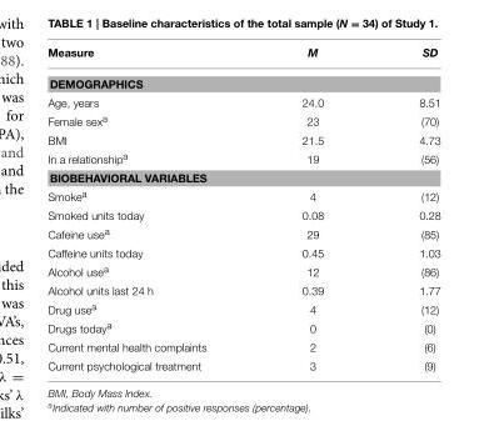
<table><thead><tr><td>Measure</td><td>M</td><td>SD</td></tr></thead><tbody><tr><td colspan="3">DEMOGRAPHICS</td></tr><tr><td>Age, years</td><td>24.0</td><td>8.51</td></tr><tr><td>Female sex<sup>a</sup></td><td>23</td><td>(70)</td></tr><tr><td>BMI</td><td>21.5</td><td>4.73</td></tr><tr><td>In a relationship<sup>a</sup></td><td>19</td><td>(56)</td></tr><tr><td colspan="3">BIOBEHAVIORAL VARIABLES</td></tr><tr><td>Smoke<sup>a</sup></td><td>4</td><td>(12)</td></tr><tr><td>Smoked units today</td><td>0.08</td><td>0.28</td></tr><tr><td>Cafeine use<sup>a</sup></td><td>29</td><td>(85)</td></tr><tr><td>Caffeine units today</td><td>0.45</td><td>1.03</td></tr><tr><td>Alcohol use<sup>a</sup></td><td>12</td><td>(86)</td></tr><tr><td>Alcohol units last 24 h</td><td>0.39</td><td>1.77</td></tr><tr><td>Drug use<sup>a</sup></td><td>4</td><td>(12)</td></tr><tr><td>Drugs today<sup>a</sup></td><td>0</td><td>(0)</td></tr><tr><td>Current mental health complaints</td><td>2</td><td>(6)</td></tr><tr><td>Current psychological treatment</td><td>3</td><td>(9)</td></tr></tbody></table>